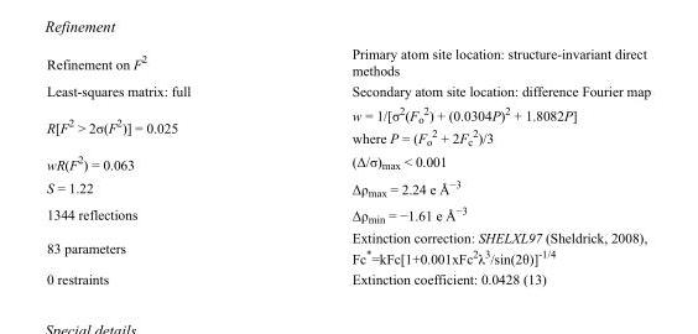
<table><tbody><tr><td>Refinement on F<sup>2</sup></td><td>Primary atom site location: structure-invariant direct methods</td></tr><tr><td>Least-squares matrix: full</td><td>Secondary atom site location: difference Fourier map</td></tr><tr><td>R[F<sup>2</sup> &gt; 2σ(F<sup>2</sup>)] = 0.025</td><td>w = 1/[σ<sup>2</sup>(F<sub>o</sub> <sup>2</sup>) + (0.0304P)<sup>2</sup> + 1.8082P] where P = (F<sub>o</sub> <sup>2</sup> + 2F<sub>c</sub> <sup>2</sup>)/3</td></tr><tr><td>wR(F<sup>2</sup>) = 0.063</td><td>(Δ/σ)<sub>max</sub> &lt; 0.001</td></tr><tr><td>S = 1.22</td><td>Δρ<sub>max</sub> = 2.24 e Å<sup>−3</sup></td></tr><tr><td>1344 reflections</td><td>Δρ<sub>min</sub> = −1.61 e Å<sup>−3</sup></td></tr><tr><td>83 parameters</td><td>Extinction correction: SHELXL97 (Sheldrick, 2008), Fc*=kFc[1+0.001xFc<sup>2</sup>λ<sup>3</sup>/sin(2θ)]<sup>-1/4</sup></td></tr><tr><td>0 restraints</td><td>Extinction coefficient: 0.0428 (13)</td></tr></tbody></table>